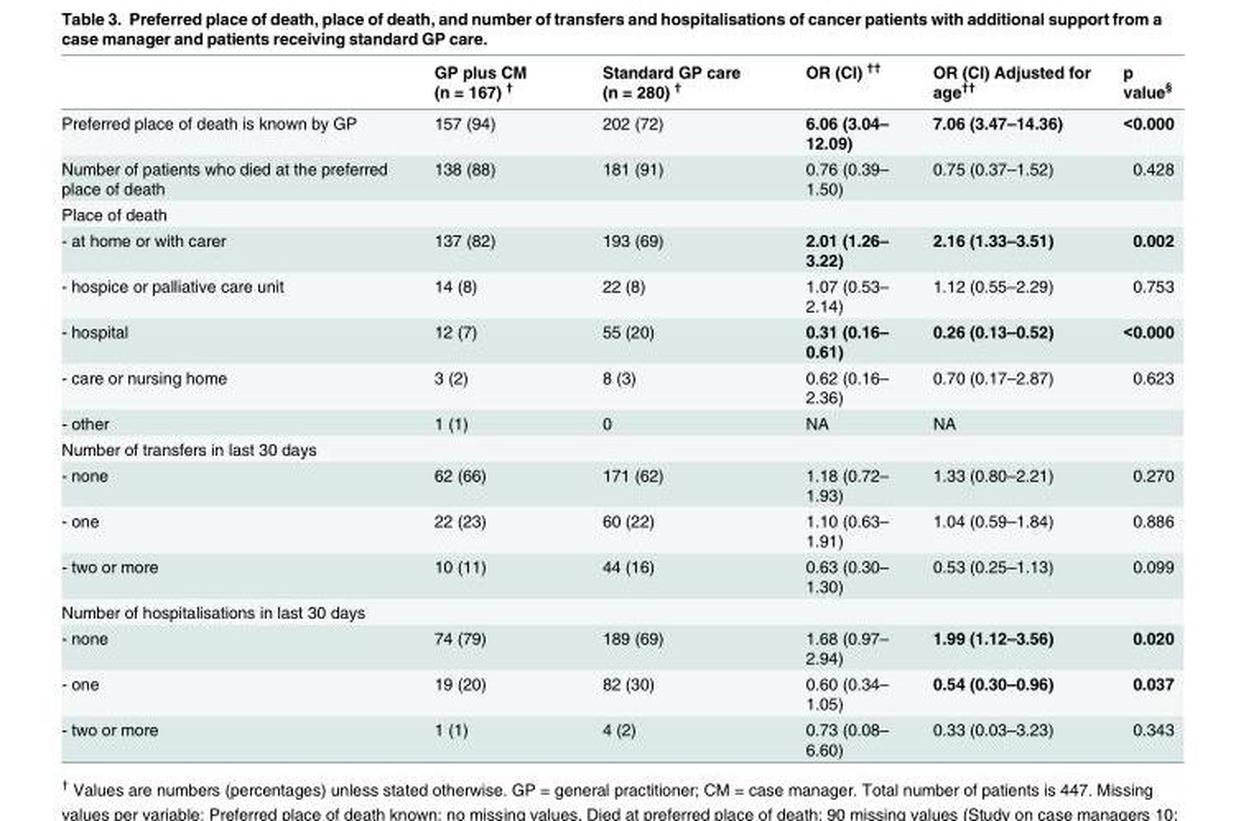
<table><thead><tr><td></td><td>GP plus CM (n = 167) <sup>†</sup></td><td>Standard GP care (n = 280) <sup>†</sup></td><td>OR (CI) <sup>††</sup></td><td>OR (CI) Adjusted for age<sup>††</sup></td><td>p value<sup>§</sup></td></tr></thead><tbody><tr><td>Preferred place of death is known by GP</td><td>157 (94)</td><td>202 (72)</td><td>6.06 (3.04– 12.09)</td><td>7.06 (3.47–14.36)</td><td>&lt;0.000</td></tr><tr><td>Number of patients who died at the preferred place of death</td><td>138 (88)</td><td>181 (91)</td><td>0.76 (0.39– 1.50)</td><td>0.75 (0.37–1.52)</td><td>0.428</td></tr><tr><td colspan="6">Place of death</td></tr><tr><td>- at home or with carer</td><td>137 (82)</td><td>193 (69)</td><td>2.01 (1.26– 3.22)</td><td>2.16 (1.33–3.51)</td><td>0.002</td></tr><tr><td>- hospice or palliative care unit</td><td>14 (8)</td><td>22 (8)</td><td>1.07 (0.53– 2.14)</td><td>1.12 (0.55–2.29)</td><td>0.753</td></tr><tr><td>- hospital</td><td>12 (7)</td><td>55 (20)</td><td>0.31 (0.16– 0.61)</td><td>0.26 (0.13–0.52)</td><td>&lt;0.000</td></tr><tr><td>- care or nursing home</td><td>3 (2)</td><td>8 (3)</td><td>0.62 (0.16– 2.36)</td><td>0.70 (0.17–2.87)</td><td>0.623</td></tr><tr><td>- other</td><td>1 (1)</td><td>0</td><td>NA</td><td>NA</td><td></td></tr><tr><td colspan="6">Number of transfers in last 30 days</td></tr><tr><td>- none</td><td>62 (66)</td><td>171 (62)</td><td>1.18 (0.72– 1.93)</td><td>1.33 (0.80–2.21)</td><td>0.270</td></tr><tr><td>- one</td><td>22 (23)</td><td>60 (22)</td><td>1.10 (0.63– 1.91)</td><td>1.04 (0.59–1.84)</td><td>0.886</td></tr><tr><td>- two or more</td><td>10 (11)</td><td>44 (16)</td><td>0.63 (0.30– 1.30)</td><td>0.53 (0.25–1.13)</td><td>0.099</td></tr><tr><td colspan="6">Number of hospitalisations in last 30 days</td></tr><tr><td>- none</td><td>74 (79)</td><td>189 (69)</td><td>1.68 (0.97– 2.94)</td><td>1.99 (1.12–3.56)</td><td>0.020</td></tr><tr><td>- one</td><td>19 (20)</td><td>82 (30)</td><td>0.60 (0.34– 1.05)</td><td>0.54 (0.30–0.96)</td><td>0.037</td></tr><tr><td>- two or more</td><td>1 (1)</td><td>4 (2)</td><td>0.73 (0.08– 6.60)</td><td>0.33 (0.03–3.23)</td><td>0.343</td></tr></tbody></table>